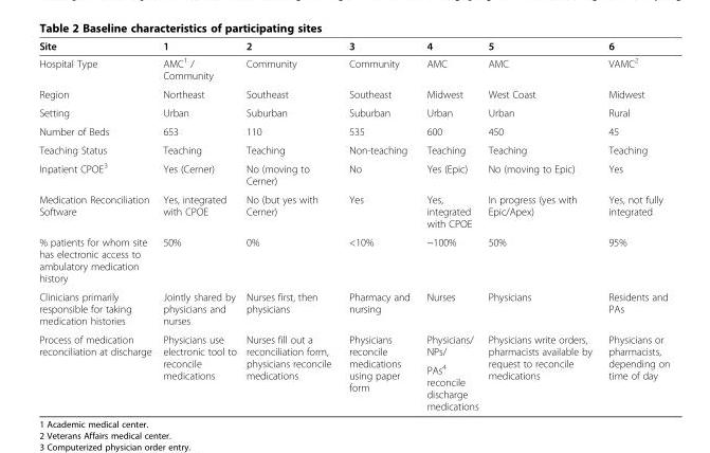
<table><thead><tr><td>Site</td><td>1</td><td>2</td><td>3</td><td>4</td><td>5</td><td>6</td></tr></thead><tbody><tr><td>Hospital Type</td><td>AMC<sup>1</sup> / Community</td><td>Community</td><td>Community</td><td>AMC</td><td>AMC</td><td>VAMC<sup>2</sup></td></tr><tr><td>Region</td><td>Northeast</td><td>Southeast</td><td>Southeast</td><td>Midwest</td><td>West Coast</td><td>Midwest</td></tr><tr><td>Setting</td><td>Urban</td><td>Suburban</td><td>Suburban</td><td>Urban</td><td>Urban</td><td>Rural</td></tr><tr><td>Number of Beds</td><td>653</td><td>110</td><td>535</td><td>600</td><td>450</td><td>45</td></tr><tr><td>Teaching Status</td><td>Teaching</td><td>Teaching</td><td>Non-teaching</td><td>Teaching</td><td>Teaching</td><td>Teaching</td></tr><tr><td>Inpatient CPOE<sup>3</sup></td><td>Yes (Cerner)</td><td>No (moving to Cerner)</td><td>No</td><td>Yes (Epic)</td><td>No (moving to Epic)</td><td>Yes</td></tr><tr><td>Medication Reconciliation Software</td><td>Yes, integrated with CPOE</td><td>No (but yes with Cerner)</td><td>Yes</td><td>Yes, integrated with CPOE</td><td>In progress (yes with Epic/Apex)</td><td>Yes, not fully integrated</td></tr><tr><td>% patients for whom site has electronic access to ambulatory medication history</td><td>50%</td><td>0%</td><td>&lt;10%</td><td>~100%</td><td>50%</td><td>95%</td></tr><tr><td>Clinicians primarily responsible for taking medication histories</td><td>Jointly shared by physicians and nurses</td><td>Nurses first, then physicians</td><td>Pharmacy and nursing</td><td>Nurses</td><td>Physicians</td><td>Residents and PAs</td></tr><tr><td rowspan="2">Process of medication reconciliation at discharge</td><td rowspan="2">Physicians use electronic tool to reconcile medications</td><td rowspan="2">Nurses fill out a reconciliation form, physicians reconcile medications</td><td rowspan="2">Physicians reconcile medications using paper form</td><td>Physicians/ NPs/</td><td rowspan="2">Physicians write orders, pharmacists available by request to reconcile medications</td><td rowspan="2">Physicians or pharmacists, depending on time of day</td></tr><tr><td>PAs<sup>4</sup> reconcile discharge medications</td></tr></tbody></table>